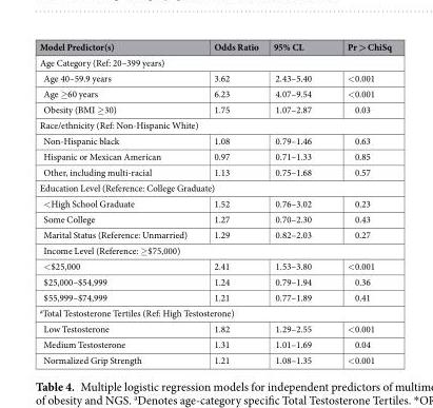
<table><thead><tr><td>Model Predictor(s)</td><td>Odds Ratio</td><td>95% CL</td><td>Pr &gt; ChiSq</td></tr></thead><tbody><tr><td colspan="4">Age Category (Ref: 20–399 years)</td></tr><tr><td>Age 40–59.9 years</td><td>3.62</td><td>2.43–5.40</td><td>&lt;0.001</td></tr><tr><td>Age ≥60 years</td><td>6.23</td><td>4.07–9.54</td><td>&lt;0.001</td></tr><tr><td>Obesity (BMI ≥30)</td><td>1.75</td><td>1.07–2.87</td><td>0.03</td></tr><tr><td colspan="4">Race/ethnicity (Ref: Non-Hispanic White)</td></tr><tr><td>Non-Hispanic black</td><td>1.08</td><td>0.79–1.46</td><td>0.63</td></tr><tr><td>Hispanic or Mexican American</td><td>0.97</td><td>0.71–1.33</td><td>0.85</td></tr><tr><td>Other, including multi-racial</td><td>1.13</td><td>0.75–1.68</td><td>0.57</td></tr><tr><td colspan="4">Education Level (Reference: College Graduate)</td></tr><tr><td>&lt;High School Graduate</td><td>1.52</td><td>0.76–3.02</td><td>0.23</td></tr><tr><td>Some College</td><td>1.27</td><td>0.70–2.30</td><td>0.43</td></tr><tr><td>Marital Status (Reference: Unmarried)</td><td>1.29</td><td>0.82–2.03</td><td>0.27</td></tr><tr><td colspan="4">Income Level (Reference: ≥$75,000)</td></tr><tr><td>&lt;$25,000</td><td>2.41</td><td>1.53–3.80</td><td>&lt;0.001</td></tr><tr><td>$25,000–$54,999</td><td>1.24</td><td>0.79–1.94</td><td>0.36</td></tr><tr><td>$55,999–$74,999</td><td>1.21</td><td>0.77–1.89</td><td>0.41</td></tr><tr><td colspan="4"><sup>a</sup>Total Testosterone Tertiles (Ref: High Testosterone)</td></tr><tr><td>Low Testosterone</td><td>1.82</td><td>1.29–2.55</td><td>&lt;0.001</td></tr><tr><td>Medium Testosterone</td><td>1.31</td><td>1.01–1.69</td><td>0.04</td></tr><tr><td>Normalized Grip Strength</td><td>1.21</td><td>1.08–1.35</td><td>&lt;0.001</td></tr></tbody></table>